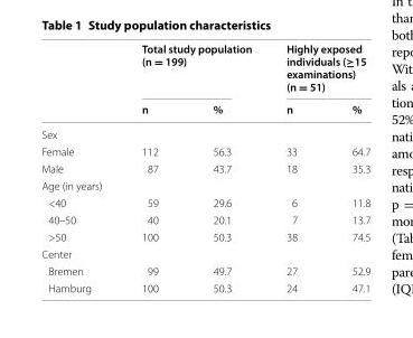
<table><thead><tr><td rowspan="2"></td><td colspan="2">Total study population (n = 199)</td><td colspan="2">Highly exposed individuals (≥15 examinations) (n = 51)</td></tr><tr><td>n</td><td>%</td><td>n</td><td>%</td></tr></thead><tbody><tr><td colspan="5">Sex</td></tr><tr><td>Female</td><td>112</td><td>56.3</td><td>33</td><td>64.7</td></tr><tr><td>Male</td><td>87</td><td>43.7</td><td>18</td><td>35.3</td></tr><tr><td colspan="5">Age (in years)</td></tr><tr><td>&lt;40</td><td>59</td><td>29.6</td><td>6</td><td>11.8</td></tr><tr><td>40–50</td><td>40</td><td>20.1</td><td>7</td><td>13.7</td></tr><tr><td>&gt;50</td><td>100</td><td>50.3</td><td>38</td><td>74.5</td></tr><tr><td colspan="5">Center</td></tr><tr><td>Bremen</td><td>99</td><td>49.7</td><td>27</td><td>52.9</td></tr><tr><td>Hamburg</td><td>100</td><td>50.3</td><td>24</td><td>47.1</td></tr></tbody></table>